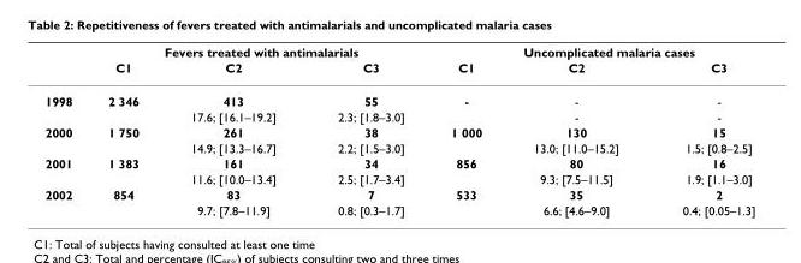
<table><thead><tr><td rowspan="2"></td><td colspan="3">Fevers treated with antimalarials</td><td colspan="3">Uncomplicated malaria cases</td></tr><tr><td>C1</td><td>C2</td><td>C3</td><td>C1</td><td>C2</td><td>C3</td></tr></thead><tbody><tr><td rowspan="2">1998</td><td>2 346</td><td>413</td><td>55</td><td>-</td><td>-</td><td>-</td></tr><tr><td></td><td>17.6; [16.1–19.2]</td><td>2.3; [1.8–3.0]</td><td></td><td>-</td><td>-</td></tr><tr><td rowspan="2">2000</td><td>1 750</td><td>261</td><td>38</td><td>1 000</td><td>130</td><td>15</td></tr><tr><td></td><td>14.9; [13.3–16.7]</td><td>2.2; [1.5–3.0]</td><td></td><td>13.0; [11.0–15.2]</td><td>1.5; [0.8–2.5]</td></tr><tr><td rowspan="2">2001</td><td>1 383</td><td>161</td><td>34</td><td>856</td><td>80</td><td>16</td></tr><tr><td></td><td>11.6; [10.0–13.4]</td><td>2.5; [1.7–3.4]</td><td></td><td>9.3; [7.5–11.5]</td><td>1.9; [1.1–3.0]</td></tr><tr><td rowspan="2">2002</td><td>854</td><td>83</td><td>7</td><td>533</td><td>35</td><td>2</td></tr><tr><td></td><td>9.7; [7.8–11.9]</td><td>0.8; [0.3–1.7]</td><td></td><td>6.6; [4.6–9.0]</td><td>0.4; [0.05–1.3]</td></tr></tbody></table>